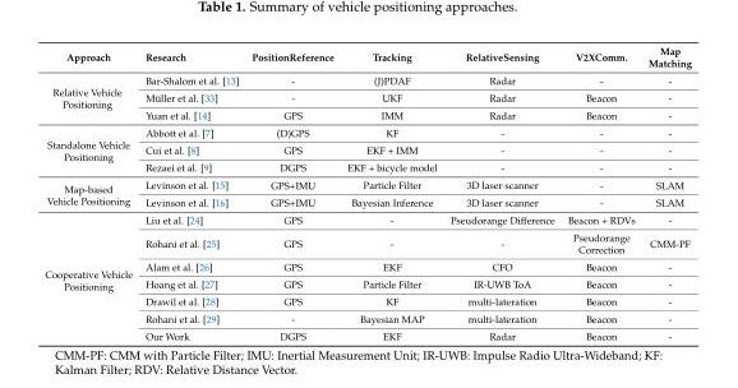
<table><thead><tr><td>Approach</td><td>Research</td><td>PositionReference</td><td>Tracking</td><td>RelativeSensing</td><td>V2XComm.</td><td>Map Matching</td></tr></thead><tbody><tr><td rowspan="3">Relative Vehicle Positioning</td><td>Bar-Shalom et al. [13]</td><td>-</td><td>(J)PDAF</td><td>Radar</td><td>-</td><td>-</td></tr><tr><td>Müller et al. [33]</td><td>-</td><td>UKF</td><td>Radar</td><td>Beacon</td><td>-</td></tr><tr><td>Yuan et al. [14]</td><td>GPS</td><td>IMM</td><td>Radar</td><td>Beacon</td><td>-</td></tr><tr><td rowspan="3">Standalone Vehicle Positioning</td><td>Abbott et al. [7]</td><td>(D)GPS</td><td>KF</td><td>-</td><td>-</td><td>-</td></tr><tr><td>Cui et al. [8]</td><td>GPS</td><td>EKF + IMM</td><td>-</td><td>-</td><td>-</td></tr><tr><td>Rezaei et al. [9]</td><td>DGPS</td><td>EKF + bicycle model</td><td>-</td><td>-</td><td>-</td></tr><tr><td rowspan="2">Map-based Vehicle Positioning</td><td>Levinson et al. [15]</td><td>GPS+IMU</td><td>Particle Filter</td><td>3D laser scanner</td><td>-</td><td>SLAM</td></tr><tr><td>Levinson et al. [16]</td><td>GPS+IMU</td><td>Bayesian Inference</td><td>3D laser scanner</td><td>-</td><td>SLAM</td></tr><tr><td rowspan="7">Cooperative Vehicle Positioning</td><td>Liu et al. [24]</td><td>GPS</td><td>-</td><td>Pseudorange Difference</td><td>Beacon + RDVs</td><td>-</td></tr><tr><td>Rohani et al. [25]</td><td>GPS</td><td>-</td><td>-</td><td>Pseudorange Correction</td><td>CMM-PF</td></tr><tr><td>Alam et al. [26]</td><td>GPS</td><td>EKF</td><td>CFO</td><td>Beacon</td><td>-</td></tr><tr><td>Hoang et al. [27]</td><td>GPS</td><td>Particle Filter</td><td>IR-UWB ToA</td><td>Beacon</td><td>-</td></tr><tr><td>Drawil et al. [28]</td><td>GPS</td><td>KF</td><td>multi-lateration</td><td>Beacon</td><td>-</td></tr><tr><td>Rohani et al. [29]</td><td>-</td><td>Bayesian MAP</td><td>multi-lateration</td><td>Beacon</td><td>-</td></tr><tr><td>Our Work</td><td>DGPS</td><td>EKF</td><td>Radar</td><td>Beacon</td><td>-</td></tr></tbody></table>